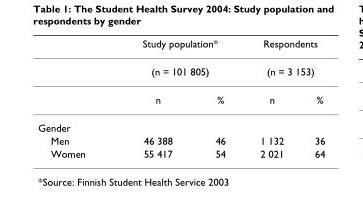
<table><thead><tr><td rowspan="3"></td><td rowspan="2" colspan="2">Study population* (n = 101 805)</td><td rowspan="2" colspan="2">Respondents (n = 3 153)</td></tr><tr></tr><tr><td>n</td><td>%</td><td>n</td><td>%</td></tr></thead><tbody><tr><td colspan="5">Gender</td></tr><tr><td>Men</td><td>46 388</td><td>46</td><td>1 132</td><td>36</td></tr><tr><td>Women</td><td>55 417</td><td>54</td><td>2 021</td><td>64</td></tr></tbody></table>